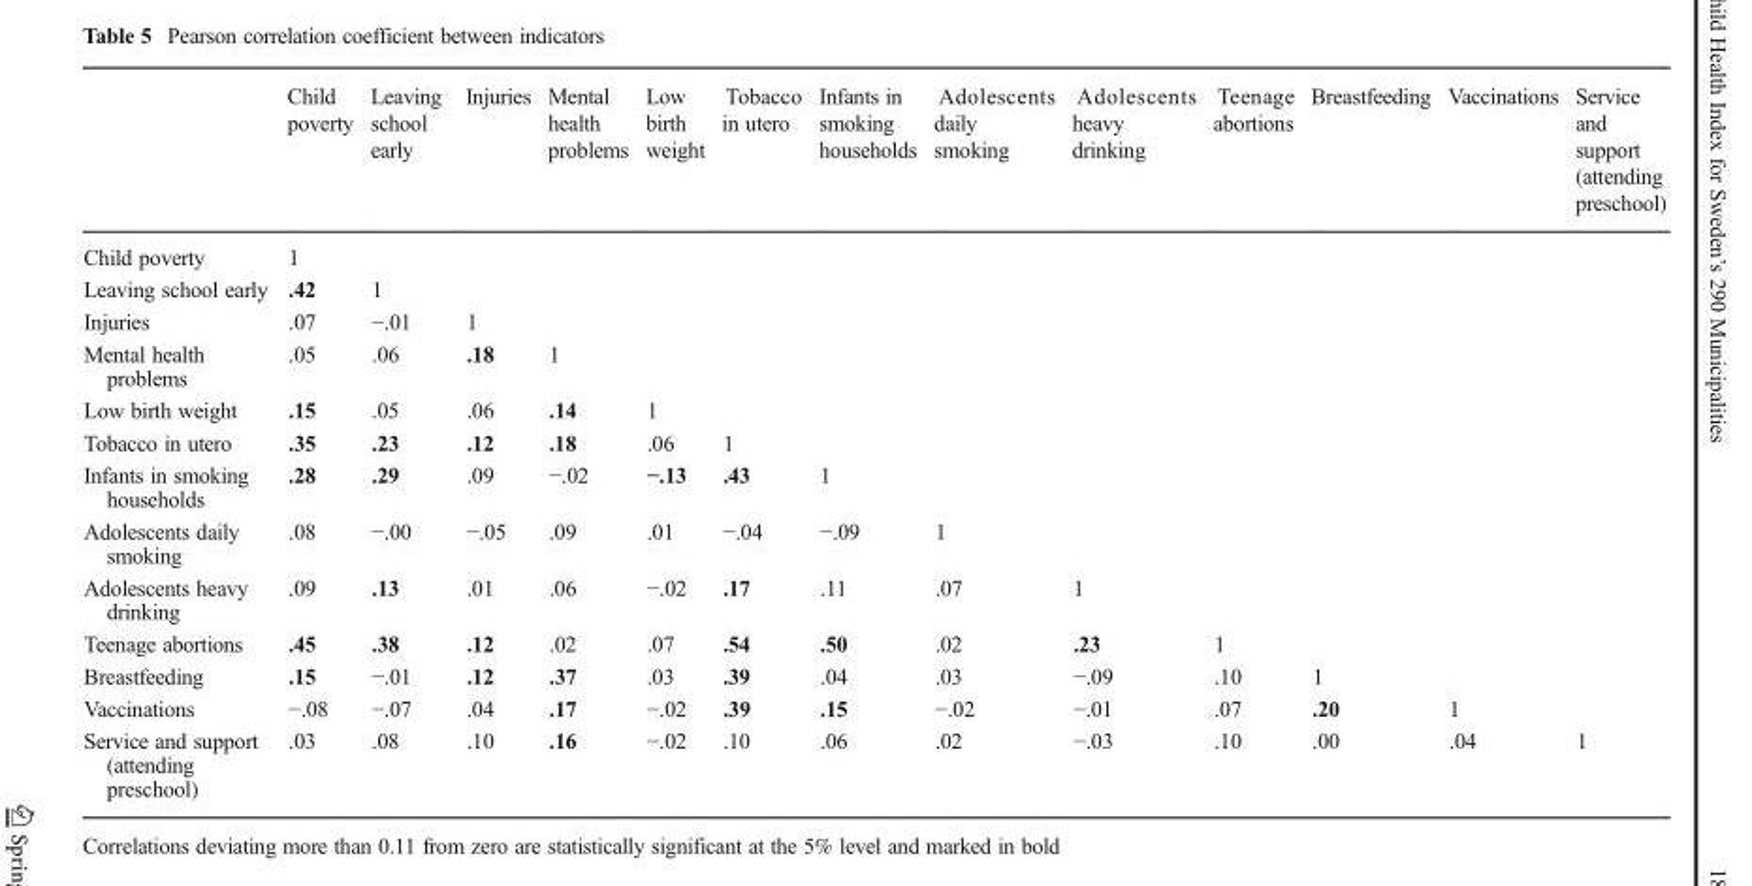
<table><thead><tr><td></td><td>Child poverty</td><td>Leaving school early</td><td>Injuries</td><td>Mental health problems</td><td>Low birth weight</td><td>Tobacco in utero</td><td>Infants in smoking households</td><td>Adolescents daily smoking</td><td>Adolescents heavy drinking</td><td>Teenage abortions</td><td>Breastfeeding</td><td>Vaccinations</td><td>Service and support (attending preschool)</td></tr></thead><tbody><tr><td>Child poverty</td><td>1</td><td></td><td></td><td></td><td></td><td></td><td></td><td></td><td></td><td></td><td></td><td></td><td></td></tr><tr><td>Leaving school early</td><td>.42</td><td>1</td><td></td><td></td><td></td><td></td><td></td><td></td><td></td><td></td><td></td><td></td><td></td></tr><tr><td>Injuries</td><td>.07</td><td>−.01</td><td>1</td><td></td><td></td><td></td><td></td><td></td><td></td><td></td><td></td><td></td><td></td></tr><tr><td>Mental health problems</td><td>.05</td><td>.06</td><td>.18</td><td>1</td><td></td><td></td><td></td><td></td><td></td><td></td><td></td><td></td><td></td></tr><tr><td>Low birth weight</td><td>.15</td><td>.05</td><td>.06</td><td>.14</td><td>1</td><td></td><td></td><td></td><td></td><td></td><td></td><td></td><td></td></tr><tr><td>Tobacco in utero</td><td>.35</td><td>.23</td><td>.12</td><td>.18</td><td>.06</td><td>1</td><td></td><td></td><td></td><td></td><td></td><td></td><td></td></tr><tr><td>Infants in smoking households</td><td>.28</td><td>.29</td><td>.09</td><td>−.02</td><td>−.13</td><td>.43</td><td>1</td><td></td><td></td><td></td><td></td><td></td><td></td></tr><tr><td>Adolescents daily smoking</td><td>.08</td><td>−.00</td><td>−.05</td><td>.09</td><td>.01</td><td>−.04</td><td>−.09</td><td>1</td><td></td><td></td><td></td><td></td><td></td></tr><tr><td>Adolescents heavy drinking</td><td>.09</td><td>.13</td><td>.01</td><td>.06</td><td>−.02</td><td>.17</td><td>.11</td><td>.07</td><td>1</td><td></td><td></td><td></td><td></td></tr><tr><td>Teenage abortions</td><td>.45</td><td>.38</td><td>.12</td><td>.02</td><td>.07</td><td>.54</td><td>.50</td><td>.02</td><td>.23</td><td>1</td><td></td><td></td><td></td></tr><tr><td>Breastfeeding</td><td>.15</td><td>−.01</td><td>.12</td><td>.37</td><td>.03</td><td>.39</td><td>.04</td><td>.03</td><td>−.09</td><td>.10</td><td>1</td><td></td><td></td></tr><tr><td>Vaccinations</td><td>−.08</td><td>−.07</td><td>.04</td><td>.17</td><td>−.02</td><td>.39</td><td>.15</td><td>−.02</td><td>−.01</td><td>.07</td><td>.20</td><td>1</td><td></td></tr><tr><td>Service and support (attending preschool)</td><td>.03</td><td>.08</td><td>.10</td><td>.16</td><td>−.02</td><td>.10</td><td>.06</td><td>.02</td><td>−.03</td><td>.10</td><td>.00</td><td>.04</td><td>1</td></tr></tbody></table>